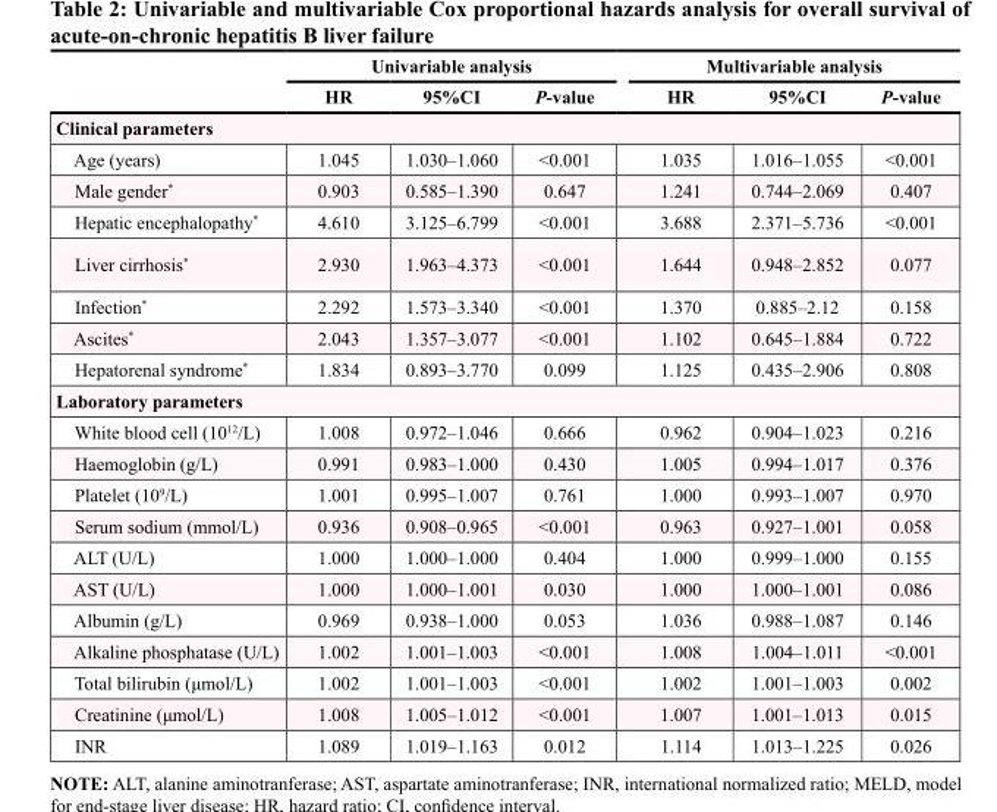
<table><thead><tr><td rowspan="2"></td><td colspan="3">Univariable analysis</td><td colspan="3">Multivariable analysis</td></tr><tr><td>HR</td><td>95%CI</td><td>P-value</td><td>HR</td><td>95%CI</td><td>P-value</td></tr></thead><tbody><tr><td colspan="7">Clinical parameters</td></tr><tr><td>Age (years)</td><td>1.045</td><td>1.030–1.060</td><td>&lt;0.001</td><td>1.035</td><td>1.016–1.055</td><td>&lt;0.001</td></tr><tr><td>Male gender*</td><td>0.903</td><td>0.585–1.390</td><td>0.647</td><td>1.241</td><td>0.744–2.069</td><td>0.407</td></tr><tr><td>Hepatic encephalopathy*</td><td>4.610</td><td>3.125–6.799</td><td>&lt;0.001</td><td>3.688</td><td>2.371–5.736</td><td>&lt;0.001</td></tr><tr><td>Liver cirrhosis*</td><td>2.930</td><td>1.963–4.373</td><td>&lt;0.001</td><td>1.644</td><td>0.948–2.852</td><td>0.077</td></tr><tr><td>Infection*</td><td>2.292</td><td>1.573–3.340</td><td>&lt;0.001</td><td>1.370</td><td>0.885–2.12</td><td>0.158</td></tr><tr><td>Ascites*</td><td>2.043</td><td>1.357–3.077</td><td>&lt;0.001</td><td>1.102</td><td>0.645–1.884</td><td>0.722</td></tr><tr><td>Hepatorenal syndrome*</td><td>1.834</td><td>0.893–3.770</td><td>0.099</td><td>1.125</td><td>0.435–2.906</td><td>0.808</td></tr><tr><td colspan="7">Laboratory parameters</td></tr><tr><td>White blood cell (10<sup>12</sup>/L)</td><td>1.008</td><td>0.972–1.046</td><td>0.666</td><td>0.962</td><td>0.904–1.023</td><td>0.216</td></tr><tr><td>Haemoglobin (g/L)</td><td>0.991</td><td>0.983–1.000</td><td>0.430</td><td>1.005</td><td>0.994–1.017</td><td>0.376</td></tr><tr><td>Platelet (10<sup>9</sup>/L)</td><td>1.001</td><td>0.995–1.007</td><td>0.761</td><td>1.000</td><td>0.993–1.007</td><td>0.970</td></tr><tr><td>Serum sodium (mmol/L)</td><td>0.936</td><td>0.908–0.965</td><td>&lt;0.001</td><td>0.963</td><td>0.927–1.001</td><td>0.058</td></tr><tr><td>ALT (U/L)</td><td>1.000</td><td>1.000–1.000</td><td>0.404</td><td>1.000</td><td>0.999–1.000</td><td>0.155</td></tr><tr><td>AST (U/L)</td><td>1.000</td><td>1.000–1.001</td><td>0.030</td><td>1.000</td><td>1.000–1.001</td><td>0.086</td></tr><tr><td>Albumin (g/L)</td><td>0.969</td><td>0.938–1.000</td><td>0.053</td><td>1.036</td><td>0.988–1.087</td><td>0.146</td></tr><tr><td>Alkaline phosphatase (U/L)</td><td>1.002</td><td>1.001–1.003</td><td>&lt;0.001</td><td>1.008</td><td>1.004–1.011</td><td>&lt;0.001</td></tr><tr><td>Total bilirubin (μmol/L)</td><td>1.002</td><td>1.001–1.003</td><td>&lt;0.001</td><td>1.002</td><td>1.001–1.003</td><td>0.002</td></tr><tr><td>Creatinine (μmol/L)</td><td>1.008</td><td>1.005–1.012</td><td>&lt;0.001</td><td>1.007</td><td>1.001–1.013</td><td>0.015</td></tr><tr><td>INR</td><td>1.089</td><td>1.019–1.163</td><td>0.012</td><td>1.114</td><td>1.013–1.225</td><td>0.026</td></tr></tbody></table>